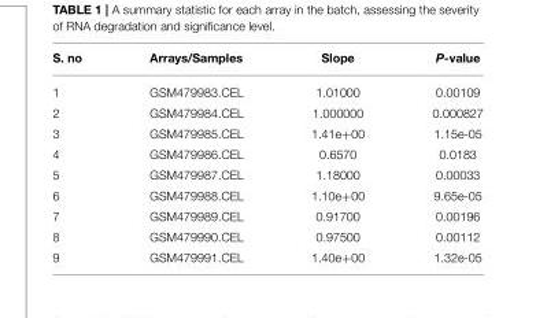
<table><thead><tr><td>S. no</td><td>Arrays/Samples</td><td>Slope</td><td>P-value</td></tr></thead><tbody><tr><td>1</td><td>GSM479983.CEL</td><td>1.01000</td><td>0.00109</td></tr><tr><td>2</td><td>GSM479984.CEL</td><td>1.000000</td><td>0.000827</td></tr><tr><td>3</td><td>GSM479985.CEL</td><td>1.41e+00</td><td>1.15e-05</td></tr><tr><td>4</td><td>GSM479986.CEL</td><td>0.6570</td><td>0.0183</td></tr><tr><td>5</td><td>GSM479987.CEL</td><td>1.18000</td><td>0.00033</td></tr><tr><td>6</td><td>GSM479988.CEL</td><td>1.10e+00</td><td>9.65e-05</td></tr><tr><td>7</td><td>GSM479989.CEL</td><td>0.91700</td><td>0.00196</td></tr><tr><td>8</td><td>GSM479990.CEL</td><td>0.97500</td><td>0.00112</td></tr><tr><td>9</td><td>GSM479991.CEL</td><td>1.40e+00</td><td>1.32e-05</td></tr></tbody></table>